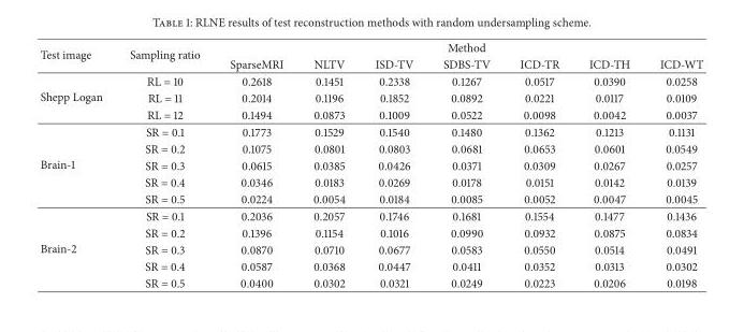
<table><thead><tr><td rowspan="2">Test image</td><td rowspan="2">Sampling ratio</td><td colspan="7">Method</td></tr><tr><td>SparseMRI</td><td>NLTV</td><td>ISD-TV</td><td>SDBS-TV</td><td>ICD-TR</td><td>ICD-TH</td><td>ICD-WT</td></tr></thead><tbody><tr><td rowspan="3">Shepp Logan</td><td>RL = 10</td><td>0.2618</td><td>0.1451</td><td>0.2338</td><td>0.1267</td><td>0.0517</td><td>0.0390</td><td>0.0258</td></tr><tr><td>RL = 11</td><td>0.2014</td><td>0.1196</td><td>0.1852</td><td>0.0892</td><td>0.0221</td><td>0.0117</td><td>0.0109</td></tr><tr><td>RL = 12</td><td>0.1494</td><td>0.0873</td><td>0.1009</td><td>0.0522</td><td>0.0098</td><td>0.0042</td><td>0.0037</td></tr><tr><td rowspan="5">Brain-1</td><td>SR = 0.1</td><td>0.1773</td><td>0.1529</td><td>0.1540</td><td>0.1480</td><td>0.1362</td><td>0.1213</td><td>0.1131</td></tr><tr><td>SR = 0.2</td><td>0.1075</td><td>0.0801</td><td>0.0803</td><td>0.0681</td><td>0.0653</td><td>0.0601</td><td>0.0549</td></tr><tr><td>SR = 0.3</td><td>0.0615</td><td>0.0385</td><td>0.0426</td><td>0.0371</td><td>0.0309</td><td>0.0267</td><td>0.0257</td></tr><tr><td>SR = 0.4</td><td>0.0346</td><td>0.0183</td><td>0.0269</td><td>0.0178</td><td>0.0151</td><td>0.0142</td><td>0.0139</td></tr><tr><td>SR = 0.5</td><td>0.0224</td><td>0.0054</td><td>0.0184</td><td>0.0085</td><td>0.0052</td><td>0.0047</td><td>0.0045</td></tr><tr><td rowspan="5">Brain-2</td><td>SR = 0.1</td><td>0.2036</td><td>0.2057</td><td>0.1746</td><td>0.1681</td><td>0.1554</td><td>0.1477</td><td>0.1436</td></tr><tr><td>SR = 0.2</td><td>0.1396</td><td>0.1154</td><td>0.1016</td><td>0.0990</td><td>0.0932</td><td>0.0875</td><td>0.0834</td></tr><tr><td>SR = 0.3</td><td>0.0870</td><td>0.0710</td><td>0.0677</td><td>0.0583</td><td>0.0550</td><td>0.0514</td><td>0.0491</td></tr><tr><td>SR = 0.4</td><td>0.0587</td><td>0.0368</td><td>0.0447</td><td>0.0411</td><td>0.0352</td><td>0.0313</td><td>0.0302</td></tr><tr><td>SR = 0.5</td><td>0.0400</td><td>0.0302</td><td>0.0321</td><td>0.0249</td><td>0.0223</td><td>0.0206</td><td>0.0198</td></tr></tbody></table>